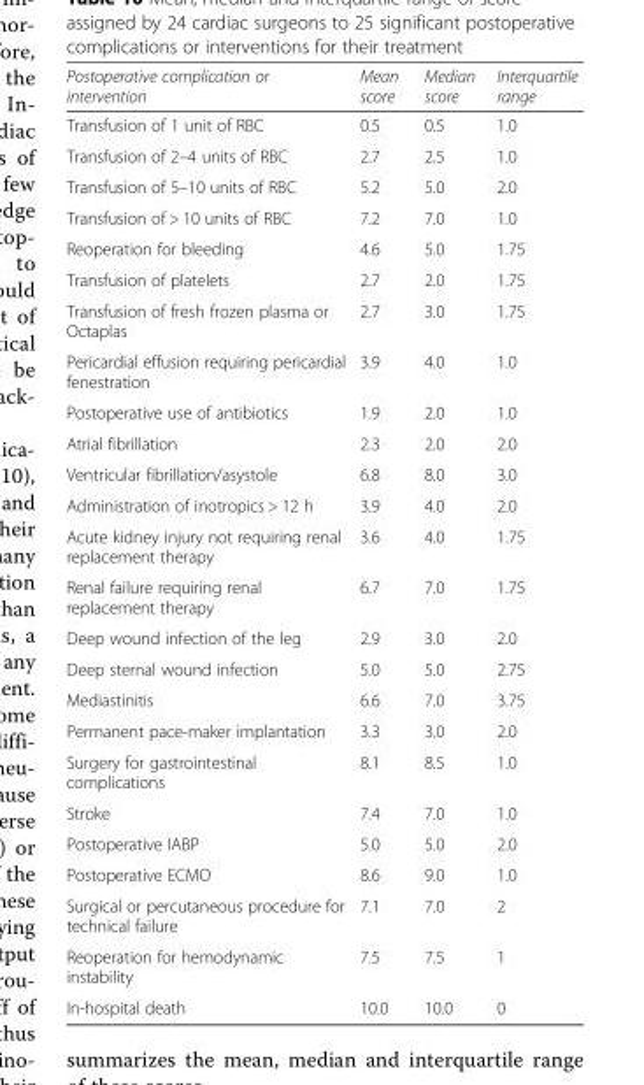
<table><thead><tr><td>Postoperative complication or intervention</td><td>Mean score</td><td>Median score</td><td>Interquartile range</td></tr></thead><tbody><tr><td>Transfusion of 1 unit of RBC</td><td>0.5</td><td>0.5</td><td>1.0</td></tr><tr><td>Transfusion of 2–4 units of RBC</td><td>2.7</td><td>2.5</td><td>1.0</td></tr><tr><td>Transfusion of 5–10 units of RBC</td><td>5.2</td><td>5.0</td><td>2.0</td></tr><tr><td>Transfusion of &gt; 10 units of RBC</td><td>7.2</td><td>7.0</td><td>1.0</td></tr><tr><td>Reoperation for bleeding</td><td>4.6</td><td>5.0</td><td>1.75</td></tr><tr><td>Transfusion of platelets</td><td>2.7</td><td>2.0</td><td>1.75</td></tr><tr><td>Transfusion of fresh frozen plasma or Octaplas</td><td>2.7</td><td>3.0</td><td>1.75</td></tr><tr><td>Pericardial effusion requiring pericardial fenestration</td><td>3.9</td><td>4.0</td><td>1.0</td></tr><tr><td>Postoperative use of antibiotics</td><td>1.9</td><td>2.0</td><td>1.0</td></tr><tr><td>Atrial fibrillation</td><td>2.3</td><td>2.0</td><td>2.0</td></tr><tr><td>Ventricular fibrillation/asystole</td><td>6.8</td><td>8.0</td><td>3.0</td></tr><tr><td>Administration of inotropics &gt; 12 h</td><td>3.9</td><td>4.0</td><td>2.0</td></tr><tr><td>Acute kidney injury not requiring renal replacement therapy</td><td>3.6</td><td>4.0</td><td>1.75</td></tr><tr><td>Renal failure requiring renal replacement therapy</td><td>6.7</td><td>7.0</td><td>1.75</td></tr><tr><td>Deep wound infection of the leg</td><td>2.9</td><td>3.0</td><td>2.0</td></tr><tr><td>Deep sternal wound infection</td><td>5.0</td><td>5.0</td><td>2.75</td></tr><tr><td>Mediastinitis</td><td>6.6</td><td>7.0</td><td>3.75</td></tr><tr><td>Permanent pace-maker implantation</td><td>3.3</td><td>3.0</td><td>2.0</td></tr><tr><td>Surgery for gastrointestinal complications</td><td>8.1</td><td>8.5</td><td>1.0</td></tr><tr><td>Stroke</td><td>7.4</td><td>7.0</td><td>1.0</td></tr><tr><td>Postoperative IABP</td><td>5.0</td><td>5.0</td><td>2.0</td></tr><tr><td>Postoperative ECMO</td><td>8.6</td><td>9.0</td><td>1.0</td></tr><tr><td>Surgical or percutaneous procedure for technical failure</td><td>7.1</td><td>7.0</td><td>2</td></tr><tr><td>Reoperation for hemodynamic instability</td><td>7.5</td><td>7.5</td><td>1</td></tr><tr><td>In-hospital death</td><td>10.0</td><td>10.0</td><td>0</td></tr></tbody></table>